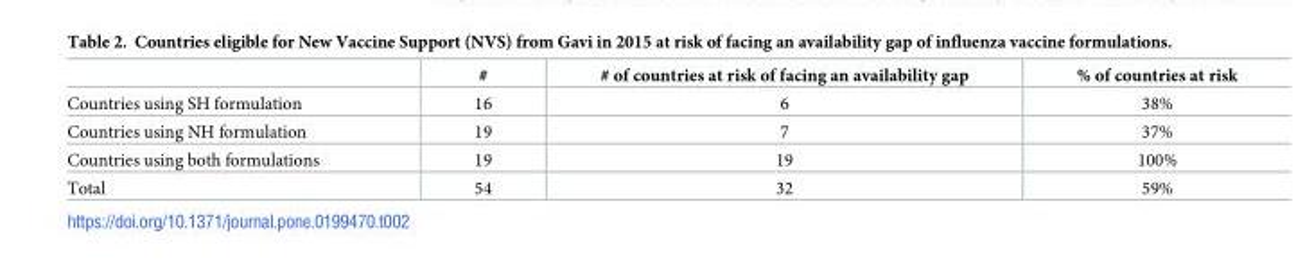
<table><thead><tr><td></td><td>#</td><td># of countries at risk of facing an availability gap</td><td>% of countries at risk</td></tr></thead><tbody><tr><td>Countries using SH formulation</td><td>16</td><td>6</td><td>38%</td></tr><tr><td>Countries using NH formulation</td><td>19</td><td>7</td><td>37%</td></tr><tr><td>Countries using both formulations</td><td>19</td><td>19</td><td>100%</td></tr><tr><td>Total</td><td>54</td><td>32</td><td>59%</td></tr></tbody></table>